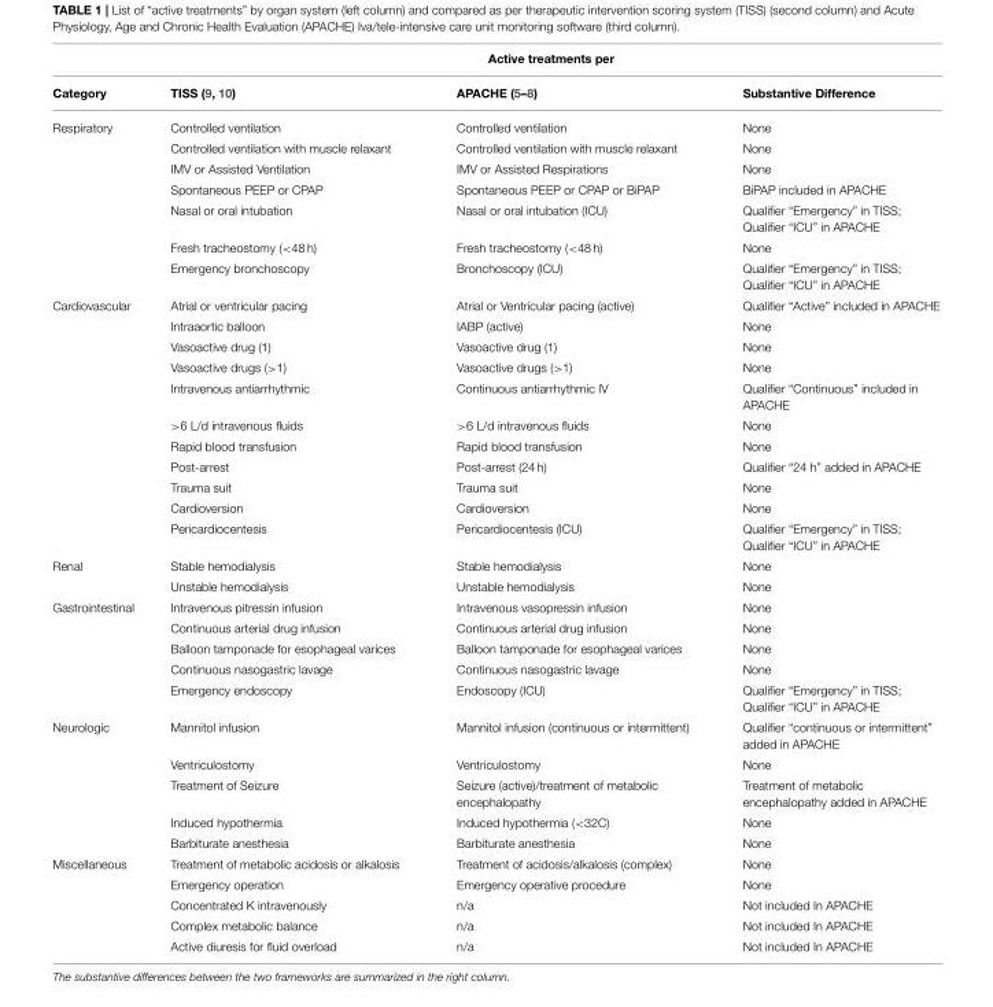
<table><thead><tr><td rowspan="2">Category</td><td colspan="3">Active treatments per</td></tr><tr><td>TISS (9, 10)</td><td>APACHE (5–8)</td><td>Substantive Difference</td></tr></thead><tbody><tr><td rowspan="7">Respiratory</td><td>Controlled ventilation</td><td>Controlled ventilation</td><td>None</td></tr><tr><td>Controlled ventilation with muscle relaxant</td><td>Controlled ventilation with muscle relaxant</td><td>None</td></tr><tr><td>IMV or Assisted Ventilation</td><td>IMV or Assisted Respirations</td><td>None</td></tr><tr><td>Spontaneous PEEP or CPAP</td><td>Spontaneous PEEP or CPAP or BiPAP</td><td>BiPAP included in APACHE</td></tr><tr><td>Nasal or oral intubation</td><td>Nasal or oral intubation (ICU)</td><td>Qualifier “Emergency” in TISS; Qualifier “ICU” in APACHE</td></tr><tr><td>Fresh tracheostomy (&lt;48 h)</td><td>Fresh tracheostomy (&lt;48 h)</td><td>None</td></tr><tr><td>Emergency bronchoscopy</td><td>Bronchoscopy (ICU)</td><td>Qualifier “Emergency” in TISS; Qualifier “ICU” in APACHE</td></tr><tr><td rowspan="11">Cardiovascular</td><td>Atrial or ventricular pacing</td><td>Atrial or Ventricular pacing (active)</td><td>Qualifier “Active” included in APACHE</td></tr><tr><td>Intraaortic balloon</td><td>IABP (active)</td><td>None</td></tr><tr><td>Vasoactive drug (1)</td><td>Vasoactive drug (1)</td><td>None</td></tr><tr><td>Vasoactive drugs (&gt;1)</td><td>Vasoactive drugs (&gt;1)</td><td>None</td></tr><tr><td>Intravenous antiarrhythmic</td><td>Continuous antiarrhythmic IV</td><td>Qualifier “Continuous” included in APACHE</td></tr><tr><td>&gt;6 L/d intravenous fluids</td><td>&gt;6 L/d intravenous fluids</td><td>None</td></tr><tr><td>Rapid blood transfusion</td><td>Rapid blood transfusion</td><td>None</td></tr><tr><td>Post-arrest</td><td>Post-arrest (24 h)</td><td>Qualifier “24 h” added in APACHE</td></tr><tr><td>Trauma suit</td><td>Trauma suit</td><td>None</td></tr><tr><td>Cardioversion</td><td>Cardioversion</td><td>None</td></tr><tr><td>Pericardiocentesis</td><td>Pericardiocentesis (ICU)</td><td>Qualifier “Emergency” in TISS; Qualifier “ICU” in APACHE</td></tr><tr><td rowspan="2">Renal</td><td>Stable hemodialysis</td><td>Stable hemodialysis</td><td>None</td></tr><tr><td>Unstable hemodialysis</td><td>Unstable hemodialysis</td><td>None</td></tr><tr><td rowspan="5">Gastrointestinal</td><td>Intravenous pitressin infusion</td><td>Intravenous vasopressin infusion</td><td>None</td></tr><tr><td>Continuous arterial drug infusion</td><td>Continuous arterial drug infusion</td><td>None</td></tr><tr><td>Balloon tamponade for esophageal varices</td><td>Balloon tamponade for esophageal varices</td><td>None</td></tr><tr><td>Continuous nasogastric lavage</td><td>Continuous nasogastric lavage</td><td>None</td></tr><tr><td>Emergency endoscopy</td><td>Endoscopy (ICU)</td><td>Qualifier “Emergency” in TISS; Qualifier “ICU” in APACHE</td></tr><tr><td rowspan="5">Neurologic</td><td>Mannitol infusion</td><td>Mannitol infusion (continuous or intermittent)</td><td>Qualifier “continuous or intermittent” added in APACHE</td></tr><tr><td>Ventriculostomy</td><td>Ventriculostomy</td><td>None</td></tr><tr><td>Treatment of Seizure</td><td>Seizure (active)/treatment of metabolic encephalopathy</td><td>Treatment of metabolic encephalopathy added in APACHE</td></tr><tr><td>Induced hypothermia</td><td>Induced hypothermia (&lt;32C)</td><td>None</td></tr><tr><td>Barbiturate anesthesia</td><td>Barbiturate anesthesia</td><td>None</td></tr><tr><td rowspan="5">Miscellaneous</td><td>Treatment of metabolic acidosis or alkalosis</td><td>Treatment of acidosis/alkalosis (complex)</td><td>None</td></tr><tr><td>Emergency operation</td><td>Emergency operative procedure</td><td>None</td></tr><tr><td>Concentrated K intravenously</td><td>n/a</td><td>Not included In APACHE</td></tr><tr><td>Complex metabolic balance</td><td>n/a</td><td>Not included In APACHE</td></tr><tr><td>Active diuresis for fluid overload</td><td>n/a</td><td>Not included In APACHE</td></tr></tbody></table>